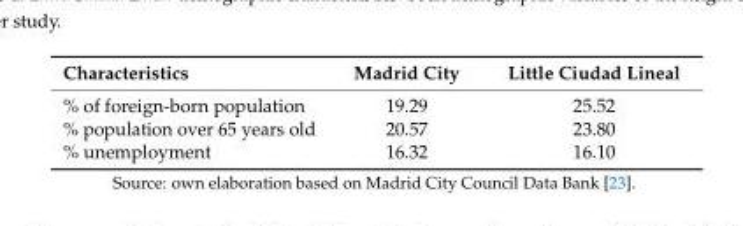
<table><thead><tr><td>Characteristics</td><td>Madrid City</td><td>Little Ciudad Lineal</td></tr></thead><tbody><tr><td>% of foreign-born population</td><td>19.29</td><td>25.52</td></tr><tr><td>% population over 65 years old</td><td>20.57</td><td>23.80</td></tr><tr><td>% unemployment</td><td>16.32</td><td>16.10</td></tr></tbody></table>